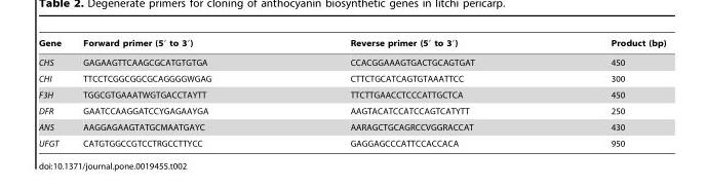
<table><thead><tr><td>Gene</td><td>Forward primer (5′ to 3′)</td><td>Reverse primer (5′ to 3′)</td><td>Product (bp)</td></tr></thead><tbody><tr><td>CHS</td><td>GAGAAGTTCAAGCGCATGTGTGA</td><td>CCACGGAAAGTGACTGCAGTGAT</td><td>450</td></tr><tr><td>CHI</td><td>TTCCTCGGCGGCGCAGGGGWGAG</td><td>CTTCTGCATCAGTGTAAATTCC</td><td>300</td></tr><tr><td>F3H</td><td>TGGCGTGAAATWGTGACCTAYTT</td><td>TTCTTGAACCTCCCATTGCTCA</td><td>450</td></tr><tr><td>DFR</td><td>GAATCCAAGGATCCYGAGAAYGA</td><td>AAGTACATCCATCCAGTCATYTT</td><td>250</td></tr><tr><td>ANS</td><td>AAGGAGAAGTATGCMAATGAYC</td><td>AARAGCTGCAGRCCVGGRACCAT</td><td>430</td></tr><tr><td>UFGT</td><td>CATGTGGCCGTCCTRGCCTTYCC</td><td>GAGGAGCCCATTCCACCACA</td><td>950</td></tr></tbody></table>